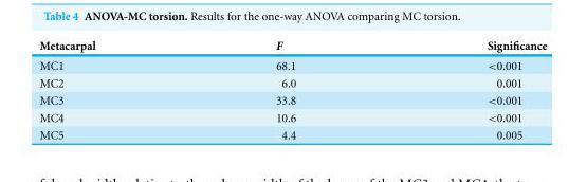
<table><thead><tr><td>Metacarpal</td><td>F</td><td>Significance</td></tr></thead><tbody><tr><td>MC1</td><td>68.1</td><td>&lt;0.001</td></tr><tr><td>MC2</td><td>6.0</td><td>0.001</td></tr><tr><td>MC3</td><td>33.8</td><td>&lt;0.001</td></tr><tr><td>MC4</td><td>10.6</td><td>&lt;0.001</td></tr><tr><td>MC5</td><td>4.4</td><td>0.005</td></tr></tbody></table>